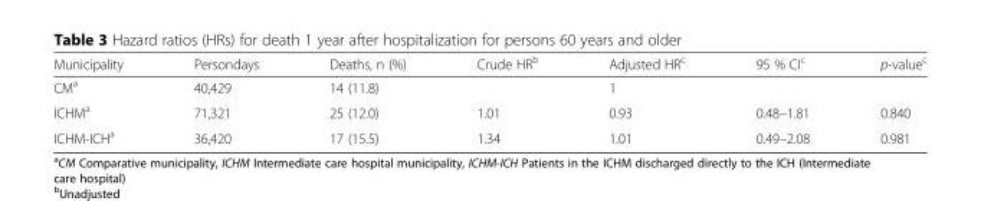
<table><thead><tr><td>Municipality</td><td>Persondays</td><td>Deaths, n (%)</td><td>Crude HR<sup>b</sup></td><td>Adjusted HR<sup>c</sup></td><td>95 % CI<sup>c</sup></td><td>p-value<sup>c</sup></td></tr></thead><tbody><tr><td>CM<sup>a</sup></td><td>40,429</td><td>14 (11.8)</td><td></td><td>1</td><td></td><td></td></tr><tr><td>ICHM<sup>a</sup></td><td>71,321</td><td>25 (12.0)</td><td>1.01</td><td>0.93</td><td>0.48–1.81</td><td>0.840</td></tr><tr><td>ICHM-ICH<sup>a</sup></td><td>36,420</td><td>17 (15.5)</td><td>1.34</td><td>1.01</td><td>0.49–2.08</td><td>0.981</td></tr></tbody></table>